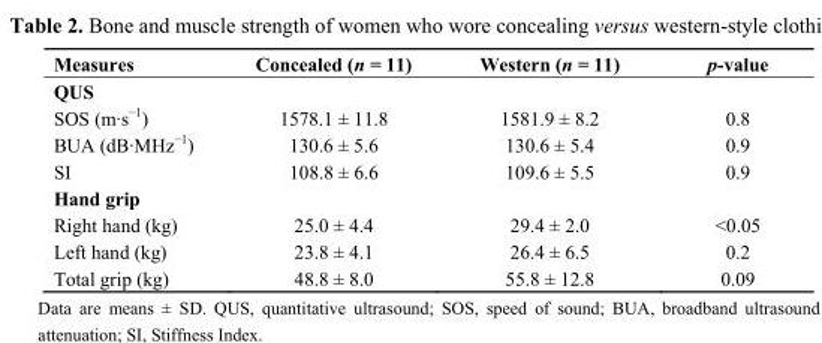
<table><thead><tr><td>Measures</td><td>Concealed (n = 11)</td><td>Western (n = 11)</td><td>p-value</td></tr></thead><tbody><tr><td colspan="4">QUS</td></tr><tr><td>SOS (m·s<sup>−1</sup>)</td><td>1578.1 ± 11.8</td><td>1581.9 ± 8.2</td><td>0.8</td></tr><tr><td>BUA (dB·MHz<sup>−1</sup>)</td><td>130.6 ± 5.6</td><td>130.6 ± 5.4</td><td>0.9</td></tr><tr><td>SI</td><td>108.8 ± 6.6</td><td>109.6 ± 5.5</td><td>0.9</td></tr><tr><td colspan="4">Hand grip</td></tr><tr><td>Right hand (kg)</td><td>25.0 ± 4.4</td><td>29.4 ± 2.0</td><td>&lt;0.05</td></tr><tr><td>Left hand (kg)</td><td>23.8 ± 4.1</td><td>26.4 ± 6.5</td><td>0.2</td></tr><tr><td>Total grip (kg)</td><td>48.8 ± 8.0</td><td>55.8 ± 12.8</td><td>0.09</td></tr></tbody></table>